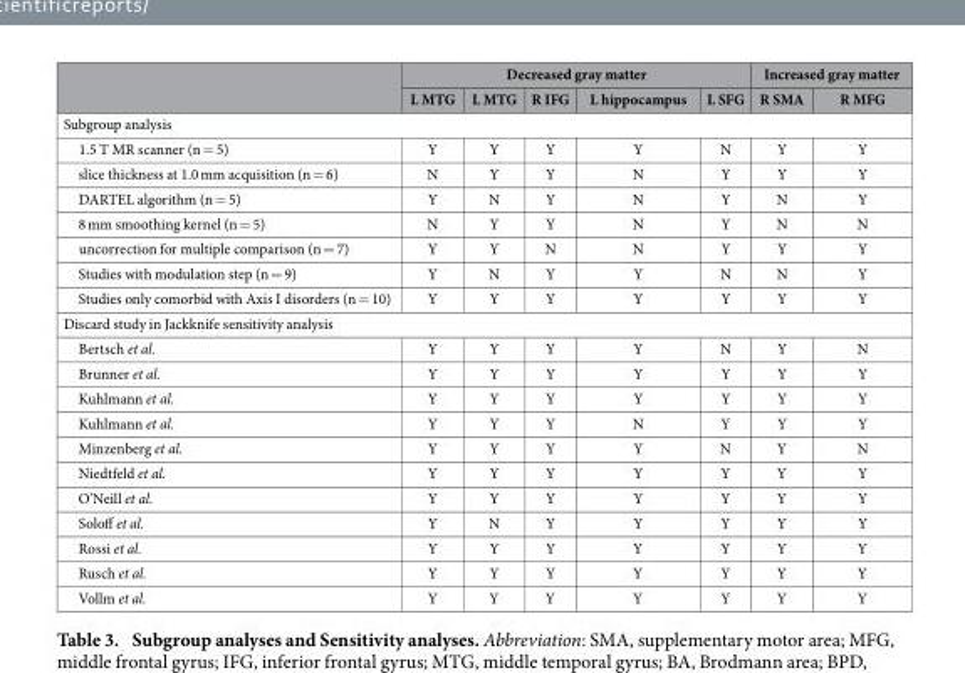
<table><thead><tr><td rowspan="2"></td><td colspan="5">Decreased gray matter</td><td colspan="2">Increased gray matter</td></tr><tr><td>L MTG</td><td>L MTG</td><td>R IFG</td><td>L hippocampus</td><td>L SFG</td><td>R SMA</td><td>R MFG</td></tr></thead><tbody><tr><td colspan="8">Subgroup analysis</td></tr><tr><td>1.5 T MR scanner (n = 5)</td><td>Y</td><td>Y</td><td>Y</td><td>Y</td><td>N</td><td>Y</td><td>Y</td></tr><tr><td>slice thickness at 1.0 mm acquisition (n = 6)</td><td>N</td><td>Y</td><td>Y</td><td>N</td><td>Y</td><td>Y</td><td>Y</td></tr><tr><td>DARTEL algorithm (n = 5)</td><td>Y</td><td>N</td><td>Y</td><td>N</td><td>Y</td><td>N</td><td>Y</td></tr><tr><td>8 mm smoothing kernel (n = 5)</td><td>N</td><td>Y</td><td>Y</td><td>N</td><td>Y</td><td>N</td><td>N</td></tr><tr><td>uncorrection for multiple comparison (n = 7)</td><td>Y</td><td>Y</td><td>N</td><td>N</td><td>Y</td><td>Y</td><td>Y</td></tr><tr><td>Studies with modulation step (n = 9)</td><td>Y</td><td>N</td><td>Y</td><td>Y</td><td>N</td><td>N</td><td>Y</td></tr><tr><td>Studies only comorbid with Axis I disorders (n = 10)</td><td>Y</td><td>Y</td><td>Y</td><td>Y</td><td>Y</td><td>Y</td><td>Y</td></tr><tr><td colspan="8">Discard study in Jackknife sensitivity analysis</td></tr><tr><td>Bertsch et al.</td><td>Y</td><td>Y</td><td>Y</td><td>Y</td><td>N</td><td>Y</td><td>N</td></tr><tr><td>Brunner et al.</td><td>Y</td><td>Y</td><td>Y</td><td>Y</td><td>Y</td><td>Y</td><td>Y</td></tr><tr><td>Kuhlmann et al.</td><td>Y</td><td>Y</td><td>Y</td><td>Y</td><td>Y</td><td>Y</td><td>Y</td></tr><tr><td>Kuhlmann et al.</td><td>Y</td><td>Y</td><td>Y</td><td>N</td><td>Y</td><td>Y</td><td>Y</td></tr><tr><td>Minzenberg et al.</td><td>Y</td><td>Y</td><td>Y</td><td>Y</td><td>N</td><td>Y</td><td>N</td></tr><tr><td>Niedtfeld et al.</td><td>Y</td><td>Y</td><td>Y</td><td>Y</td><td>Y</td><td>Y</td><td>Y</td></tr><tr><td>O’Neill et al.</td><td>Y</td><td>Y</td><td>Y</td><td>Y</td><td>Y</td><td>Y</td><td>Y</td></tr><tr><td>Soloff et al.</td><td>Y</td><td>N</td><td>Y</td><td>Y</td><td>Y</td><td>Y</td><td>Y</td></tr><tr><td>Rossi et al.</td><td>Y</td><td>Y</td><td>Y</td><td>Y</td><td>Y</td><td>Y</td><td>Y</td></tr><tr><td>Rusch et al.</td><td>Y</td><td>Y</td><td>Y</td><td>Y</td><td>Y</td><td>Y</td><td>Y</td></tr><tr><td>Vollm et al.</td><td>Y</td><td>Y</td><td>Y</td><td>Y</td><td>Y</td><td>Y</td><td>Y</td></tr></tbody></table>